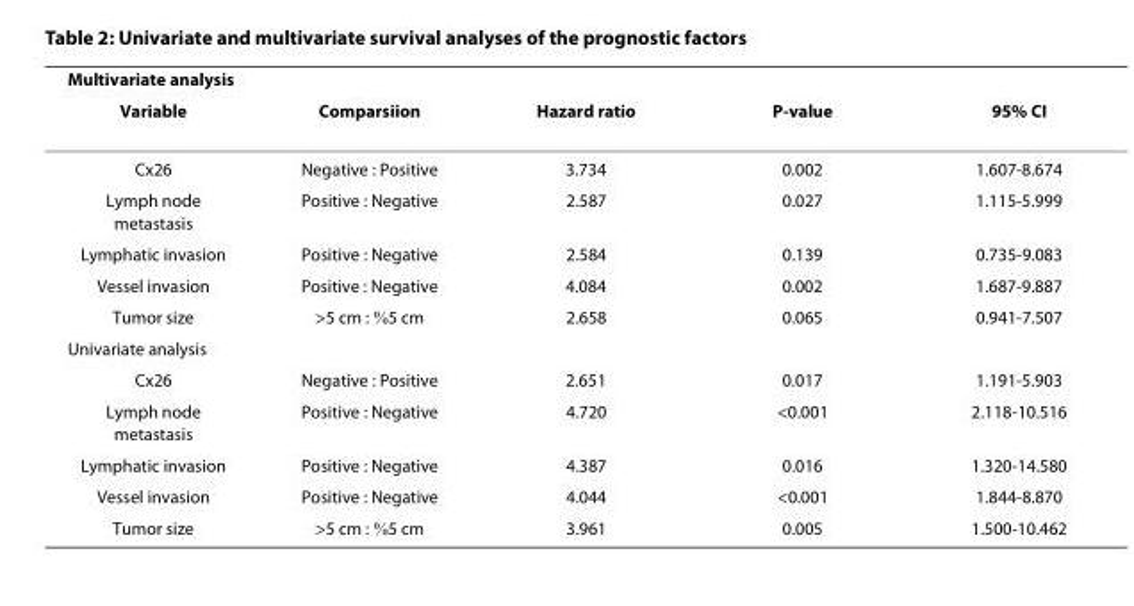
<table><thead><tr><td colspan="5">Multivariate analysis</td></tr><tr><td>Variable</td><td>Comparsiion</td><td>Hazard ratio</td><td>P-value</td><td>95% CI</td></tr></thead><tbody><tr><td>Cx26</td><td>Negative : Positive</td><td>3.734</td><td>0.002</td><td>1.607-8.674</td></tr><tr><td>Lymph node metastasis</td><td>Positive : Negative</td><td>2.587</td><td>0.027</td><td>1.115-5.999</td></tr><tr><td>Lymphatic invasion</td><td>Positive : Negative</td><td>2.584</td><td>0.139</td><td>0.735-9.083</td></tr><tr><td>Vessel invasion</td><td>Positive : Negative</td><td>4.084</td><td>0.002</td><td>1.687-9.887</td></tr><tr><td>Tumor size</td><td>&gt;5 cm : ≦5 cm</td><td>2.658</td><td>0.065</td><td>0.941-7.507</td></tr><tr><td colspan="5">Univariate analysis</td></tr><tr><td>Cx26</td><td>Negative : Positive</td><td>2.651</td><td>0.017</td><td>1.191-5.903</td></tr><tr><td>Lymph node metastasis</td><td>Positive : Negative</td><td>4.720</td><td>&lt;0.001</td><td>2.118-10.516</td></tr><tr><td>Lymphatic invasion</td><td>Positive : Negative</td><td>4.387</td><td>0.016</td><td>1.320-14.580</td></tr><tr><td>Vessel invasion</td><td>Positive : Negative</td><td>4.044</td><td>&lt;0.001</td><td>1.844-8.870</td></tr><tr><td>Tumor size</td><td>&gt;5 cm : ≦5 cm</td><td>3.961</td><td>0.005</td><td>1.500-10.462</td></tr></tbody></table>